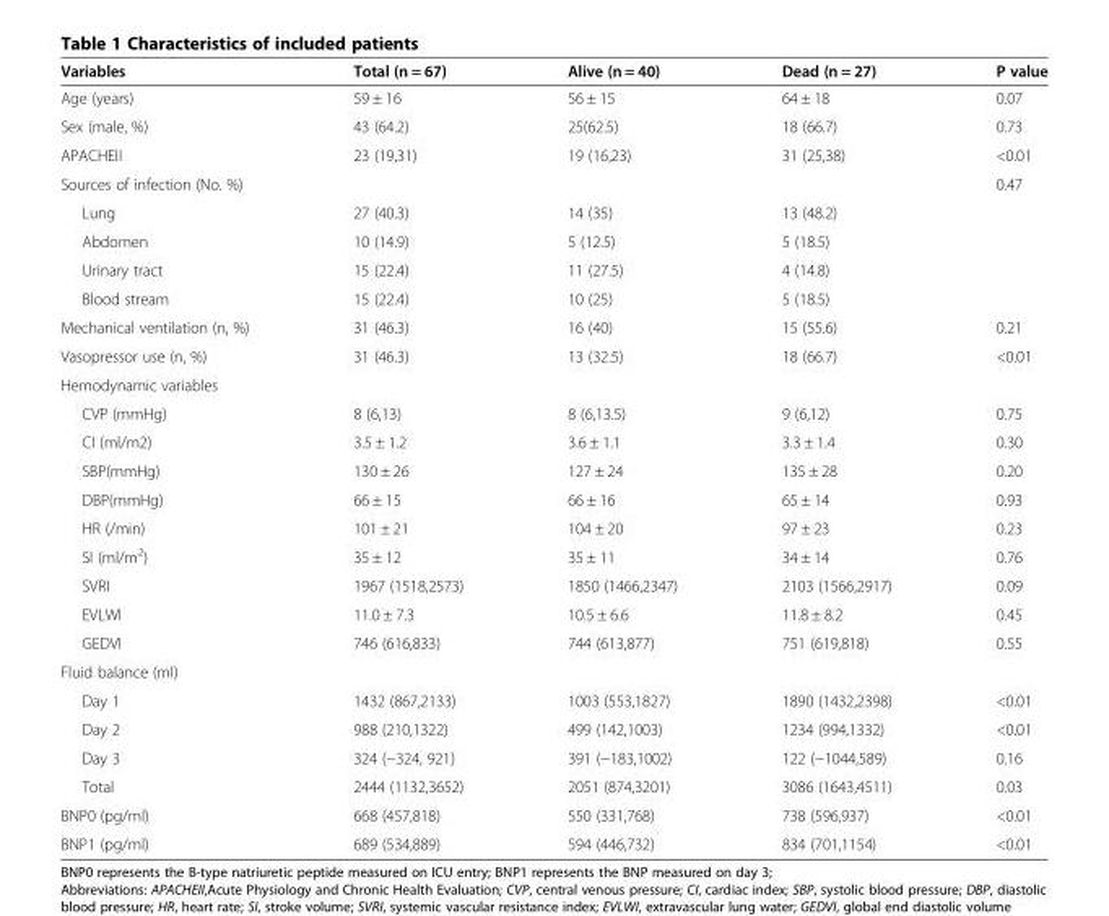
<table><thead><tr><td>Variables</td><td>Total (n = 67)</td><td>Alive (n = 40)</td><td>Dead (n = 27)</td><td>P value</td></tr></thead><tbody><tr><td>Age (years)</td><td>59 ± 16</td><td>56 ± 15</td><td>64 ± 18</td><td>0.07</td></tr><tr><td>Sex (male, %)</td><td>43 (64.2)</td><td>25(62.5)</td><td>18 (66.7)</td><td>0.73</td></tr><tr><td>APACHEII</td><td>23 (19,31)</td><td>19 (16,23)</td><td>31 (25,38)</td><td>&lt;0.01</td></tr><tr><td colspan="4">Sources of infection (No. %)</td><td>0.47</td></tr><tr><td>Lung</td><td>27 (40.3)</td><td>14 (35)</td><td>13 (48.2)</td><td></td></tr><tr><td>Abdomen</td><td>10 (14.9)</td><td>5 (12.5)</td><td>5 (18.5)</td><td></td></tr><tr><td>Urinary tract</td><td>15 (22.4)</td><td>11 (27.5)</td><td>4 (14.8)</td><td></td></tr><tr><td>Blood stream</td><td>15 (22.4)</td><td>10 (25)</td><td>5 (18.5)</td><td></td></tr><tr><td>Mechanical ventilation (n, %)</td><td>31 (46.3)</td><td>16 (40)</td><td>15 (55.6)</td><td>0.21</td></tr><tr><td>Vasopressor use (n, %)</td><td>31 (46.3)</td><td>13 (32.5)</td><td>18 (66.7)</td><td>&lt;0.01</td></tr><tr><td colspan="5">Hemodynamic variables</td></tr><tr><td>CVP (mmHg)</td><td>8 (6,13)</td><td>8 (6,13.5)</td><td>9 (6,12)</td><td>0.75</td></tr><tr><td>CI (ml/m2)</td><td>3.5 ± 1.2</td><td>3.6 ± 1.1</td><td>3.3 ± 1.4</td><td>0.30</td></tr><tr><td>SBP(mmHg)</td><td>130 ± 26</td><td>127 ± 24</td><td>135 ± 28</td><td>0.20</td></tr><tr><td>DBP(mmHg)</td><td>66 ± 15</td><td>66 ± 16</td><td>65 ± 14</td><td>0.93</td></tr><tr><td>HR (/min)</td><td>101 ± 21</td><td>104 ± 20</td><td>97 ± 23</td><td>0.23</td></tr><tr><td>SI (ml/m<sup>2</sup>)</td><td>35 ± 12</td><td>35 ± 11</td><td>34 ± 14</td><td>0.76</td></tr><tr><td>SVRI</td><td>1967 (1518,2573)</td><td>1850 (1466,2347)</td><td>2103 (1566,2917)</td><td>0.09</td></tr><tr><td>EVLWI</td><td>11.0 ± 7.3</td><td>10.5 ± 6.6</td><td>11.8 ± 8.2</td><td>0.45</td></tr><tr><td>GEDVI</td><td>746 (616,833)</td><td>744 (613,877)</td><td>751 (619,818)</td><td>0.55</td></tr><tr><td colspan="5">Fluid balance (ml)</td></tr><tr><td>Day 1</td><td>1432 (867,2133)</td><td>1003 (553,1827)</td><td>1890 (1432,2398)</td><td>&lt;0.01</td></tr><tr><td>Day 2</td><td>988 (210,1322)</td><td>499 (142,1003)</td><td>1234 (994,1332)</td><td>&lt;0.01</td></tr><tr><td>Day 3</td><td>324 (−324, 921)</td><td>391 (−183,1002)</td><td>122 (−1044,589)</td><td>0.16</td></tr><tr><td>Total</td><td>2444 (1132,3652)</td><td>2051 (874,3201)</td><td>3086 (1643,4511)</td><td>0.03</td></tr><tr><td>BNP0 (pg/ml)</td><td>668 (457,818)</td><td>550 (331,768)</td><td>738 (596,937)</td><td>&lt;0.01</td></tr><tr><td>BNP1 (pg/ml)</td><td>689 (534,889)</td><td>594 (446,732)</td><td>834 (701,1154)</td><td>&lt;0.01</td></tr></tbody></table>